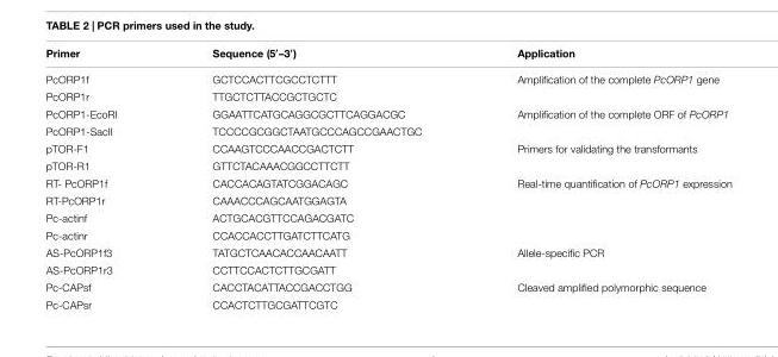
<table><thead><tr><td>Primer</td><td>Sequence (5′–3′)</td><td>Application</td></tr></thead><tbody><tr><td>PcORP1f</td><td>GCTCCACTTCGCCTCTTT</td><td>Amplification of the complete PcORP1 gene</td></tr><tr><td>PcORP1r</td><td>TTGCTCTTACCGCTGCTC</td><td></td></tr><tr><td>PcORP1-EcoRI</td><td>GGAATTCATGCAGGCGCTTCAGGACGC</td><td>Amplification of the complete ORF of PcORP1</td></tr><tr><td>PcORP1-SacII</td><td>TCCCCGCGGCTAATGCCCAGCCGAACTGC</td><td></td></tr><tr><td>pTOR-F1</td><td>CCAAGTCCCAACCGACTCTT</td><td>Primers for validating the transformants</td></tr><tr><td>pTOR-R1</td><td>GTTCTACAAACGGCCTTCTT</td><td></td></tr><tr><td>RT- PcORP1f</td><td>CACCACAGTATCGGACAGC</td><td>Real-time quantification of PcORP1 expression</td></tr><tr><td>RT-PcORP1r</td><td>CAAACCCAGCAATGGAGTA</td><td></td></tr><tr><td>Pc-actinf</td><td>ACTGCACGTTCCAGACGATC</td><td></td></tr><tr><td>Pc-actinr</td><td>CCACCACCTTGATCTTCATG</td><td></td></tr><tr><td>AS-PcORP1f3</td><td>TATGCTCAACACCAACAATT</td><td>Allele-specific PCR</td></tr><tr><td>AS-PcORP1r3</td><td>CCTTCCACTCTTGCGATT</td><td></td></tr><tr><td>Pc-CAPsf</td><td>CACCTACATTACCGACCTGG</td><td>Cleaved amplified polymorphic sequence</td></tr><tr><td>Pc-CAPsr</td><td>CCACTCTTGCGATTCGTC</td><td></td></tr></tbody></table>